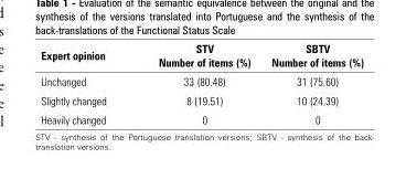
<table><thead><tr><td>Expert opinion</td><td>STV Number of items (%)</td><td>SBTV Number of items (%)</td></tr></thead><tbody><tr><td>Unchanged</td><td>33 (80.48)</td><td>31 (75.60)</td></tr><tr><td>Slightly changed</td><td>8 (19.51)</td><td>10 (24.39)</td></tr><tr><td>Heavily changed</td><td>0</td><td>0</td></tr></tbody></table>